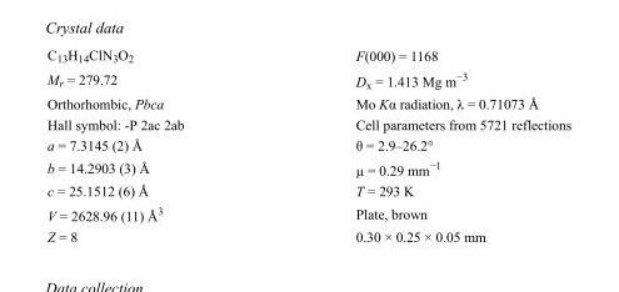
<table><tbody><tr><td>C<sub>13</sub>H<sub>14</sub>ClN<sub>3</sub>O<sub>2</sub></td><td>F(000) = 1168</td></tr><tr><td>M<sub>r</sub> = 279.72</td><td>D<sub>x</sub> = 1.413 Mg m<sup>−3</sup></td></tr><tr><td>Orthorhombic, Pbca</td><td>Mo Kα radiation, λ = 0.71073 Å</td></tr><tr><td>Hall symbol: -P 2ac 2ab</td><td>Cell parameters from 5721 reflections</td></tr><tr><td>a = 7.3145 (2) Å</td><td>θ = 2.9–26.2°</td></tr><tr><td>b = 14.2903 (3) Å</td><td>µ = 0.29 mm<sup>−1</sup></td></tr><tr><td>c = 25.1512 (6) Å</td><td>T = 293 K</td></tr><tr><td>V = 2628.96 (11) Å<sup>3</sup></td><td>Plate, brown</td></tr><tr><td>Z = 8</td><td>0.30 × 0.25 × 0.05 mm</td></tr></tbody></table>